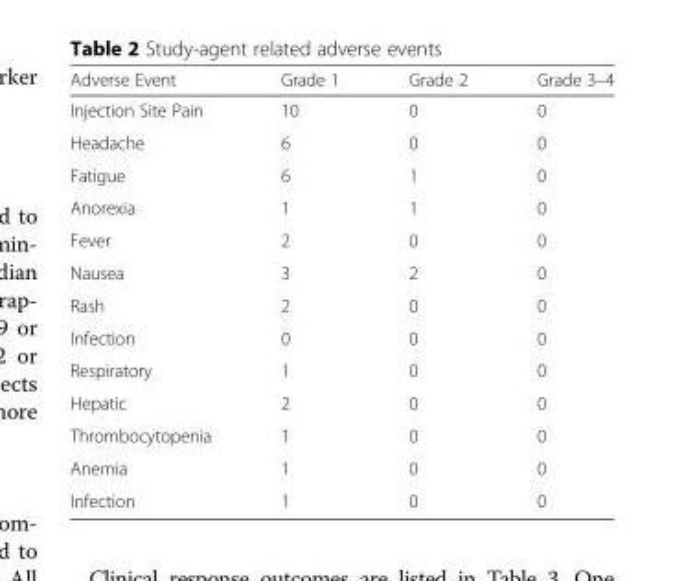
<table><thead><tr><td>Adverse Event</td><td>Grade 1</td><td>Grade 2</td><td>Grade 3–4</td></tr></thead><tbody><tr><td>Injection Site Pain</td><td>10</td><td>0</td><td>0</td></tr><tr><td>Headache</td><td>6</td><td>0</td><td>0</td></tr><tr><td>Fatigue</td><td>6</td><td>1</td><td>0</td></tr><tr><td>Anorexia</td><td>1</td><td>1</td><td>0</td></tr><tr><td>Fever</td><td>2</td><td>0</td><td>0</td></tr><tr><td>Nausea</td><td>3</td><td>2</td><td>0</td></tr><tr><td>Rash</td><td>2</td><td>0</td><td>0</td></tr><tr><td>Infection</td><td>0</td><td>0</td><td>0</td></tr><tr><td>Respiratory</td><td>1</td><td>0</td><td>0</td></tr><tr><td>Hepatic</td><td>2</td><td>0</td><td>0</td></tr><tr><td>Thrombocytopenia</td><td>1</td><td>0</td><td>0</td></tr><tr><td>Anemia</td><td>1</td><td>0</td><td>0</td></tr><tr><td>Infection</td><td>1</td><td>0</td><td>0</td></tr></tbody></table>